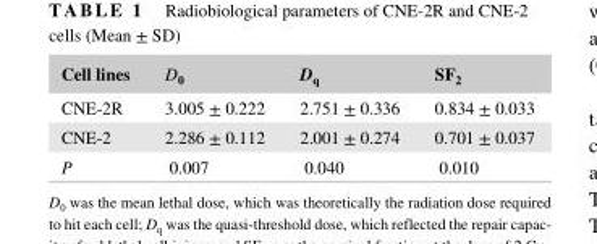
<table><thead><tr><td>Cell lines</td><td>D<sub>0</sub></td><td>D<sub>q</sub></td><td>SF<sub>2</sub></td></tr></thead><tbody><tr><td>CNE- 2R</td><td>3.005 ± 0.222</td><td>2.751 ± 0.336</td><td>0.834 ± 0.033</td></tr><tr><td>CNE- 2</td><td>2.286 ± 0.112</td><td>2.001 ± 0.274</td><td>0.701 ± 0.037</td></tr><tr><td>P</td><td>0.007</td><td>0.040</td><td>0.010</td></tr></tbody></table>